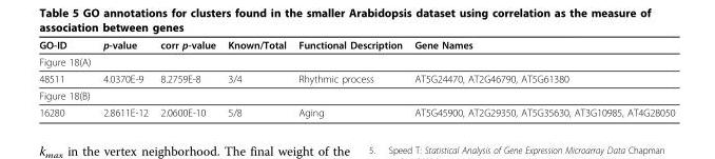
<table><thead><tr><td>GO-ID</td><td>p-value</td><td>corr p-value</td><td>Known/Total</td><td>Functional Description</td><td>Gene Names</td></tr></thead><tbody><tr><td colspan="6">Figure 18(A)</td></tr><tr><td>48511</td><td>4.0370E-9</td><td>8.2759E-8</td><td>3/4</td><td>Rhythmic process</td><td>AT5G24470, AT2G46790, AT5G61380</td></tr><tr><td colspan="6">Figure 18(B)</td></tr><tr><td>16280</td><td>2.8611E-12</td><td>2.0600E-10</td><td>5/8</td><td>Aging</td><td>AT5G45900, AT2G29350, AT5G35630, AT3G10985, AT4G28050</td></tr></tbody></table>